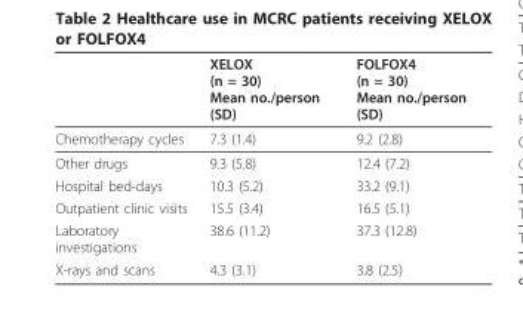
<table><thead><tr><td></td><td>XELOX (n = 30) Mean no./person (SD)</td><td>FOLFOX4 (n = 30) Mean no./person (SD)</td></tr></thead><tbody><tr><td>Chemotherapy cycles</td><td>7.3 (1.4)</td><td>9.2 (2.8)</td></tr><tr><td>Other drugs</td><td>9.3 (5.8)</td><td>12.4 (7.2)</td></tr><tr><td>Hospital bed-days</td><td>10.3 (5.2)</td><td>33.2 (9.1)</td></tr><tr><td>Outpatient clinic visits</td><td>15.5 (3.4)</td><td>16.5 (5.1)</td></tr><tr><td>Laboratory investigations</td><td>38.6 (11.2)</td><td>37.3 (12.8)</td></tr><tr><td>X-rays and scans</td><td>4.3 (3.1)</td><td>3.8 (2.5)</td></tr></tbody></table>